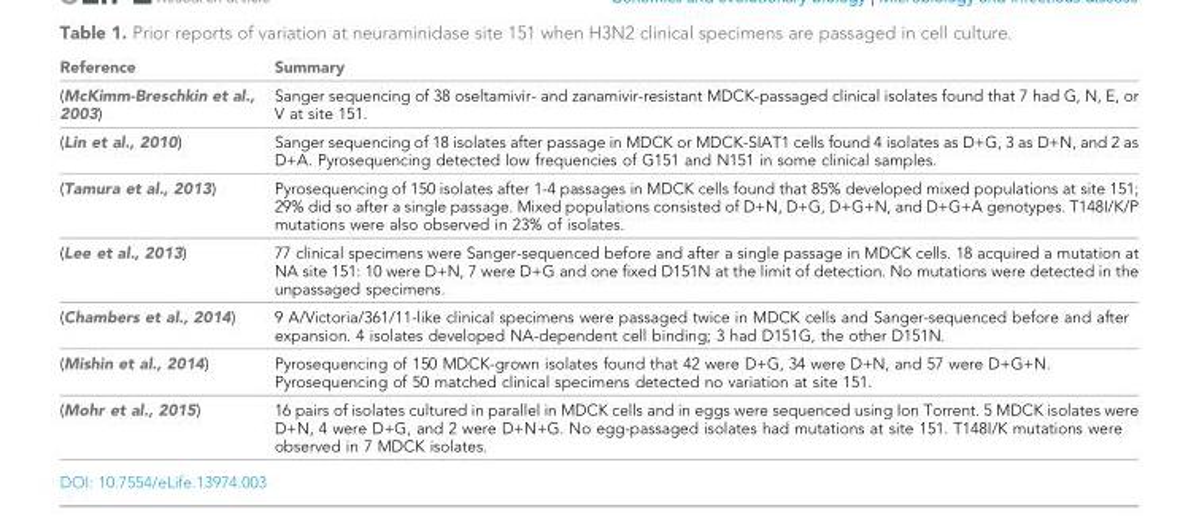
<table><thead><tr><td>Reference</td><td>Summary</td></tr></thead><tbody><tr><td>(McKimm-Breschkin et al., 2003)</td><td>Sanger sequencing of 38 oseltamivir- and zanamivir-resistant MDCK-passaged clinical isolates found that 7 had G, N, E, or V at site 151.</td></tr><tr><td>(Lin et al., 2010)</td><td>Sanger sequencing of 18 isolates after passage in MDCK or MDCK-SIAT1 cells found 4 isolates as D+G, 3 as D+N, and 2 as D+A. Pyrosequencing detected low frequencies of G151 and N151 in some clinical samples.</td></tr><tr><td>(Tamura et al., 2013)</td><td>Pyrosequencing of 150 isolates after 1-4 passages in MDCK cells found that 85% developed mixed populations at site 151; 29% did so after a single passage. Mixed populations consisted of D+N, D+G, D+G+N, and D+G+A genotypes. T148I/K/P mutations were also observed in 23% of isolates.</td></tr><tr><td>(Lee et al., 2013)</td><td>77 clinical specimens were Sanger-sequenced before and after a single passage in MDCK cells. 18 acquired a mutation at NA site 151: 10 were D+N, 7 were D+G and one fixed D151N at the limit of detection. No mutations were detected in the unpassaged specimens.</td></tr><tr><td>(Chambers et al., 2014)</td><td>9 A/Victoria/361/11-like clinical specimens were passaged twice in MDCK cells and Sanger-sequenced before and after expansion. 4 isolates developed NA-dependent cell binding; 3 had D151G, the other D151N.</td></tr><tr><td>(Mishin et al., 2014)</td><td>Pyrosequencing of 150 MDCK-grown isolates found that 42 were D+G, 34 were D+N, and 57 were D+G+N. Pyrosequencing of 50 matched clinical specimens detected no variation at site 151.</td></tr><tr><td>(Mohr et al., 2015)</td><td>16 pairs of isolates cultured in parallel in MDCK cells and in eggs were sequenced using Ion Torrent. 5 MDCK isolates were D+N, 4 were D+G, and 2 were D+N+G. No egg-passaged isolates had mutations at site 151. T148I/K mutations were observed in 7 MDCK isolates.</td></tr></tbody></table>